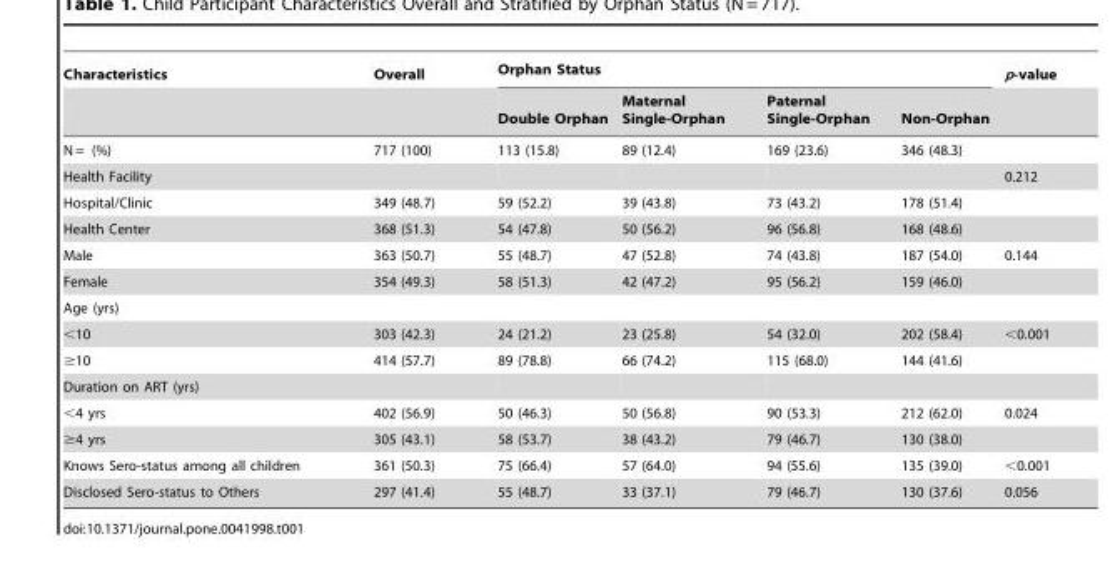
<table><thead><tr><td rowspan="2">Characteristics</td><td rowspan="2">Overall</td><td colspan="4">Orphan Status</td><td rowspan="2">p-value</td></tr><tr><td>Double Orphan</td><td>Maternal Single-Orphan</td><td>Paternal Single-Orphan</td><td>Non-Orphan</td></tr></thead><tbody><tr><td>N = (%)</td><td>717 (100)</td><td>113 (15.8)</td><td>89 (12.4)</td><td>169 (23.6)</td><td>346 (48.3)</td><td></td></tr><tr><td>Health Facility</td><td></td><td></td><td></td><td></td><td></td><td>0.212</td></tr><tr><td>Hospital/Clinic</td><td>349 (48.7)</td><td>59 (52.2)</td><td>39 (43.8)</td><td>73 (43.2)</td><td>178 (51.4)</td><td></td></tr><tr><td>Health Center</td><td>368 (51.3)</td><td>54 (47.8)</td><td>50 (56.2)</td><td>96 (56.8)</td><td>168 (48.6)</td><td></td></tr><tr><td>Male</td><td>363 (50.7)</td><td>55 (48.7)</td><td>47 (52.8)</td><td>74 (43.8)</td><td>187 (54.0)</td><td>0.144</td></tr><tr><td>Female</td><td>354 (49.3)</td><td>58 (51.3)</td><td>42 (47.2)</td><td>95 (56.2)</td><td>159 (46.0)</td><td></td></tr><tr><td colspan="7">Age (yrs)</td></tr><tr><td>&lt;10</td><td>303 (42.3)</td><td>24 (21.2)</td><td>23 (25.8)</td><td>54 (32.0)</td><td>202 (58.4)</td><td>&lt;0.001</td></tr><tr><td>≥10</td><td>414 (57.7)</td><td>89 (78.8)</td><td>66 (74.2)</td><td>115 (68.0)</td><td>144 (41.6)</td><td></td></tr><tr><td colspan="7">Duration on ART (yrs)</td></tr><tr><td>&lt;4 yrs</td><td>402 (56.9)</td><td>50 (46.3)</td><td>50 (56.8)</td><td>90 (53.3)</td><td>212 (62.0)</td><td>0.024</td></tr><tr><td>≥4 yrs</td><td>305 (43.1)</td><td>58 (53.7)</td><td>38 (43.2)</td><td>79 (46.7)</td><td>130 (38.0)</td><td></td></tr><tr><td>Knows Sero-status among all children</td><td>361 (50.3)</td><td>75 (66.4)</td><td>57 (64.0)</td><td>94 (55.6)</td><td>135 (39.0)</td><td>&lt;0.001</td></tr><tr><td>Disclosed Sero-status to Others</td><td>297 (41.4)</td><td>55 (48.7)</td><td>33 (37.1)</td><td>79 (46.7)</td><td>130 (37.6)</td><td>0.056</td></tr></tbody></table>